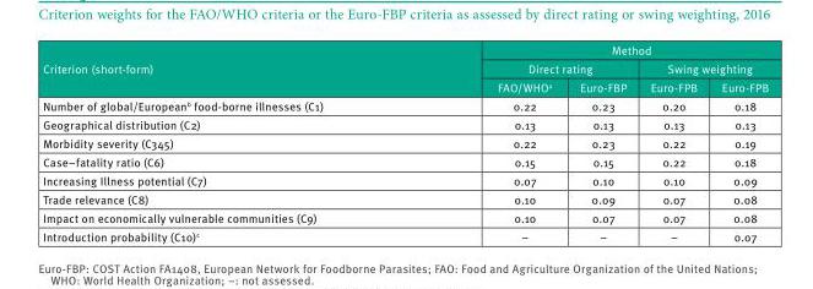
<table><thead><tr><td rowspan="3">Criterion (short-form)</td><td colspan="4">Method</td></tr><tr><td colspan="2">Direct rating</td><td colspan="2">Swing weighting</td></tr><tr><td>FAO/WHO<sup>a</sup></td><td>Euro-FBP</td><td>Euro-FPB</td><td>Euro-FPB</td></tr></thead><tbody><tr><td>Number of global/European<sup>b</sup> food-borne illnesses (C1)</td><td>0.22</td><td>0.23</td><td>0.20</td><td>0.18</td></tr><tr><td>Geographical distribution (C2)</td><td>0.13</td><td>0.13</td><td>0.13</td><td>0.13</td></tr><tr><td>Morbidity severity (C345)</td><td>0.22</td><td>0.23</td><td>0.22</td><td>0.19</td></tr><tr><td>Case–fatality ratio (C6)</td><td>0.15</td><td>0.15</td><td>0.22</td><td>0.18</td></tr><tr><td>Increasing Illness potential (C7)</td><td>0.07</td><td>0.10</td><td>0.10</td><td>0.09</td></tr><tr><td>Trade relevance (C8)</td><td>0.10</td><td>0.09</td><td>0.07</td><td>0.08</td></tr><tr><td>Impact on economically vulnerable communities (C9)</td><td>0.10</td><td>0.07</td><td>0.07</td><td>0.08</td></tr><tr><td>Introduction probability (C10)<sup>c</sup></td><td>–</td><td>–</td><td>–</td><td>0.07</td></tr></tbody></table>